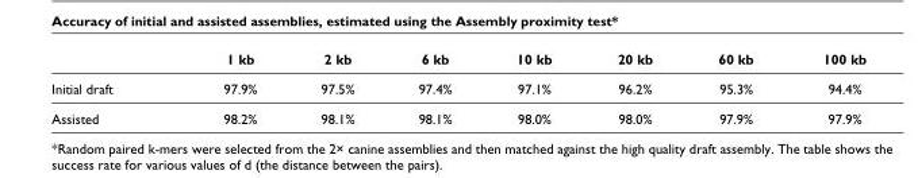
<table><thead><tr><td></td><td>1 kb</td><td>2 kb</td><td>6 kb</td><td>10 kb</td><td>20 kb</td><td>60 kb</td><td>100 kb</td></tr></thead><tbody><tr><td>Initial draft</td><td>97.9%</td><td>97.5%</td><td>97.4%</td><td>97.1%</td><td>96.2%</td><td>95.3%</td><td>94.4%</td></tr><tr><td>Assisted</td><td>98.2%</td><td>98.1%</td><td>98.1%</td><td>98.0%</td><td>98.0%</td><td>97.9%</td><td>97.9%</td></tr></tbody></table>